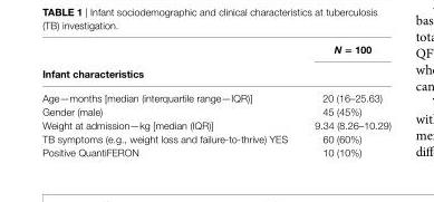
<table><thead><tr><td rowspan="2">infant characteristics</td><td rowspan="2">N = 100</td></tr><tr></tr></thead><tbody><tr><td>Age—months [median (interquartile range—IQR)]</td><td>20 (16–25.63)</td></tr><tr><td>Gender (male)</td><td>45 (45%)</td></tr><tr><td>Weight at admission—kg [median (IQR)]</td><td>9.34 (8.26–10.29)</td></tr><tr><td>TB symptoms (e.g., weight loss and failure-to-thrive) YES</td><td>60 (60%)</td></tr><tr><td>Positive QuantiFERON</td><td>10 (10%)</td></tr></tbody></table>